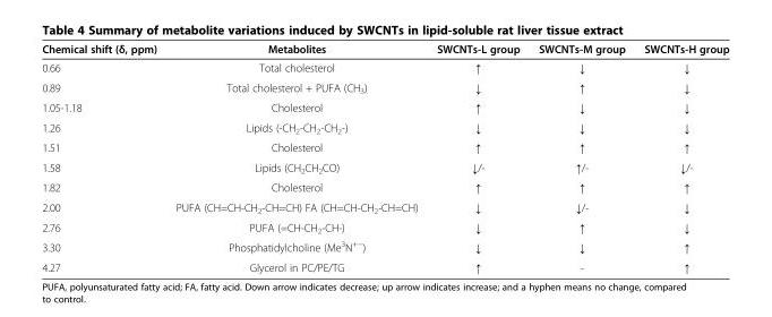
<table><thead><tr><td>Chemical shift (δ, ppm)</td><td>Metabolites</td><td>SWCNTs-L group</td><td>SWCNTs-M group</td><td>SWCNTs-H group</td></tr></thead><tbody><tr><td>0.66</td><td>Total cholesterol</td><td>↑</td><td>↓</td><td>↓</td></tr><tr><td>0.89</td><td>Total cholesterol + PUFA (CH<sub>3</sub>)</td><td>↓</td><td>↑</td><td>↓</td></tr><tr><td>1.05-1.18</td><td>Cholesterol</td><td>↑</td><td>↓</td><td>↓</td></tr><tr><td>1.26</td><td>Lipids (-CH<sub>2</sub>-CH<sub>2</sub>-CH<sub>2</sub>-)</td><td>↓</td><td>↓</td><td>↓</td></tr><tr><td>1.51</td><td>Cholesterol</td><td>↑</td><td>↑</td><td>↑</td></tr><tr><td>1.58</td><td>Lipids (CH<sub>2</sub>CH<sub>2</sub>CO)</td><td>↓/-</td><td>↑/-</td><td>↓/-</td></tr><tr><td>1.82</td><td>Cholesterol</td><td>↑</td><td>↑</td><td>↑</td></tr><tr><td>2.00</td><td>PUFA (CH=CH-CH<sub>2</sub>-CH=CH) FA (CH=CH-CH<sub>2</sub>-CH=CH)</td><td>↓</td><td>↓/-</td><td>↓</td></tr><tr><td>2.76</td><td>PUFA (=CH-CH<sub>2</sub>-CH-)</td><td>↓</td><td>↑</td><td>↓</td></tr><tr><td>3.30</td><td>Phosphatidylcholine (Me<sup>3</sup>N<sup>+−</sup>)</td><td>↓</td><td>↓</td><td>↑</td></tr><tr><td>4.27</td><td>Glycerol in PC/PE/TG</td><td>↑</td><td>-</td><td>↑</td></tr></tbody></table>